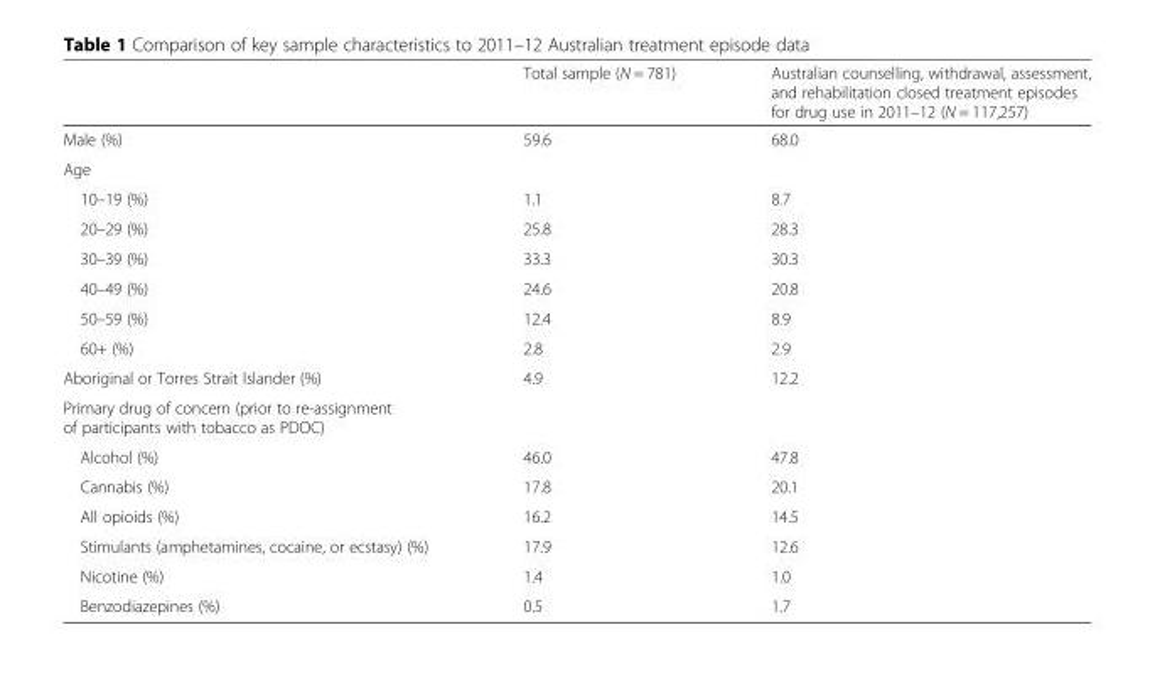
<table><thead><tr><td></td><td>Total sample (N = 781)</td><td>Australian counselling, withdrawal, assessment, and rehabilitation closed treatment episodes for drug use in 2011–12 (N = 117,257)</td></tr></thead><tbody><tr><td>Male (%)</td><td>59.6</td><td>68.0</td></tr><tr><td colspan="3">Age</td></tr><tr><td>10–19 (%)</td><td>1.1</td><td>8.7</td></tr><tr><td>20–29 (%)</td><td>25.8</td><td>28.3</td></tr><tr><td>30–39 (%)</td><td>33.3</td><td>30.3</td></tr><tr><td>40–49 (%)</td><td>24.6</td><td>20.8</td></tr><tr><td>50–59 (%)</td><td>12.4</td><td>8.9</td></tr><tr><td>60+ (%)</td><td>2.8</td><td>2.9</td></tr><tr><td>Aboriginal or Torres Strait Islander (%)</td><td>4.9</td><td>12.2</td></tr><tr><td colspan="3">Primary drug of concern (prior to re-assignment of participants with tobacco as PDOC)</td></tr><tr><td>Alcohol (%)</td><td>46.0</td><td>47.8</td></tr><tr><td>Cannabis (%)</td><td>17.8</td><td>20.1</td></tr><tr><td>All opioids (%)</td><td>16.2</td><td>14.5</td></tr><tr><td>Stimulants (amphetamines, cocaine, or ecstasy) (%)</td><td>17.9</td><td>12.6</td></tr><tr><td>Nicotine (%)</td><td>1.4</td><td>1.0</td></tr><tr><td>Benzodiazepines (%)</td><td>0.5</td><td>1.7</td></tr></tbody></table>